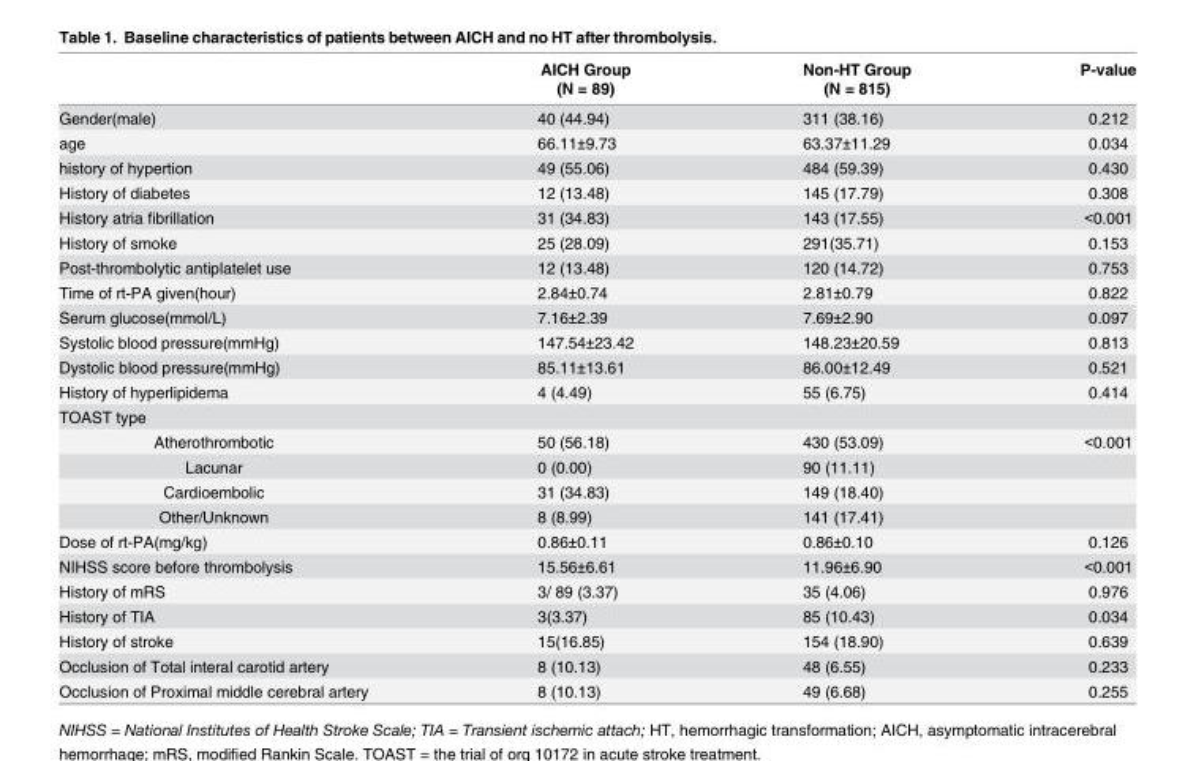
<table><thead><tr><td rowspan="2"></td><td rowspan="2">AICH Group (N = 89)</td><td rowspan="2">Non-HT Group (N = 815)</td><td rowspan="2">P-value</td></tr><tr></tr></thead><tbody><tr><td>Gender(male)</td><td>40 (44.94)</td><td>311 (38.16)</td><td>0.212</td></tr><tr><td>age</td><td>66.11±9.73</td><td>63.37±11.29</td><td>0.034</td></tr><tr><td>history of hypertion</td><td>49 (55.06)</td><td>484 (59.39)</td><td>0.430</td></tr><tr><td>History of diabetes</td><td>12 (13.48)</td><td>145 (17.79)</td><td>0.308</td></tr><tr><td>History atria fibrillation</td><td>31 (34.83)</td><td>143 (17.55)</td><td>&lt;0.001</td></tr><tr><td>History of smoke</td><td>25 (28.09)</td><td>291(35.71)</td><td>0.153</td></tr><tr><td>Post-thrombolytic antiplatelet use</td><td>12 (13.48)</td><td>120 (14.72)</td><td>0.753</td></tr><tr><td>Time of rt-PA given(hour)</td><td>2.84±0.74</td><td>2.81±0.79</td><td>0.822</td></tr><tr><td>Serum glucose(mmol/L)</td><td>7.16±2.39</td><td>7.69±2.90</td><td>0.097</td></tr><tr><td>Systolic blood pressure(mmHg)</td><td>147.54±23.42</td><td>148.23±20.59</td><td>0.813</td></tr><tr><td>Dystolic blood pressure(mmHg)</td><td>85.11±13.61</td><td>86.00±12.49</td><td>0.521</td></tr><tr><td>History of hyperlipidema</td><td>4 (4.49)</td><td>55 (6.75)</td><td>0.414</td></tr><tr><td colspan="4">TOAST type</td></tr><tr><td>Atherothrombotic</td><td>50 (56.18)</td><td>430 (53.09)</td><td>&lt;0.001</td></tr><tr><td>Lacunar</td><td>0 (0.00)</td><td>90 (11.11)</td><td></td></tr><tr><td>Cardioembolic</td><td>31 (34.83)</td><td>149 (18.40)</td><td></td></tr><tr><td>Other/Unknown</td><td>8 (8.99)</td><td>141 (17.41)</td><td></td></tr><tr><td>Dose of rt-PA(mg/kg)</td><td>0.86±0.11</td><td>0.86±0.10</td><td>0.126</td></tr><tr><td>NIHSS score before thrombolysis</td><td>15.56±6.61</td><td>11.96±6.90</td><td>&lt;0.001</td></tr><tr><td>History of mRS</td><td>3/ 89 (3.37)</td><td>35 (4.06)</td><td>0.976</td></tr><tr><td>History of TIA</td><td>3(3.37)</td><td>85 (10.43)</td><td>0.034</td></tr><tr><td>History of stroke</td><td>15(16.85)</td><td>154 (18.90)</td><td>0.639</td></tr><tr><td>Occlusion of Total interal carotid artery</td><td>8 (10.13)</td><td>48 (6.55)</td><td>0.233</td></tr><tr><td>Occlusion of Proximal middle cerebral artery</td><td>8 (10.13)</td><td>49 (6.68)</td><td>0.255</td></tr></tbody></table>